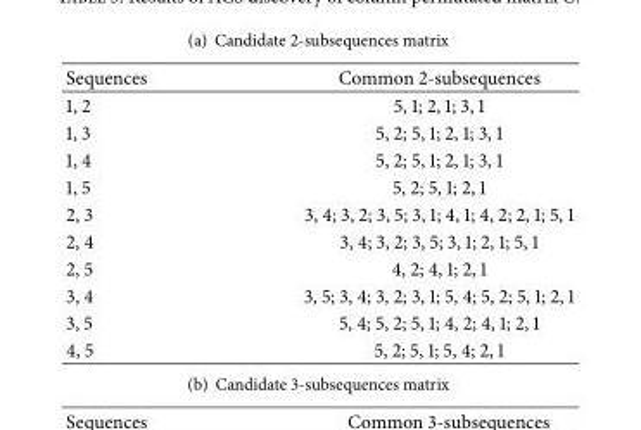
<table><tbody><tr><td>Sequences</td><td>Common 2-subsequences</td></tr><tr><td>1, 2</td><td>5, 1; 2, 1; 3, 1</td></tr><tr><td>1, 3</td><td>5, 2; 5, 1; 2, 1; 3, 1</td></tr><tr><td>1, 4</td><td>5, 2; 5, 1; 2, 1; 3, 1</td></tr><tr><td>1, 5</td><td>5, 2; 5, 1; 2, 1</td></tr><tr><td>2, 3</td><td>3, 4; 3, 2; 3, 5; 3, 1; 4, 1; 4, 2; 2, 1; 5, 1</td></tr><tr><td>2, 4</td><td>3, 4; 3, 2; 3, 5; 3, 1; 2, 1; 5, 1</td></tr><tr><td>2, 5</td><td>4, 2; 4, 1; 2, 1</td></tr><tr><td>3, 4</td><td>3, 5; 3, 4; 3, 2; 3, 1; 5, 4; 5, 2; 5, 1; 2, 1</td></tr><tr><td>3, 5</td><td>5, 4; 5, 2; 5, 1; 4, 2; 4, 1; 2, 1</td></tr><tr><td>4, 5</td><td>5, 2; 5, 1; 5, 4; 2, 1</td></tr></tbody></table>